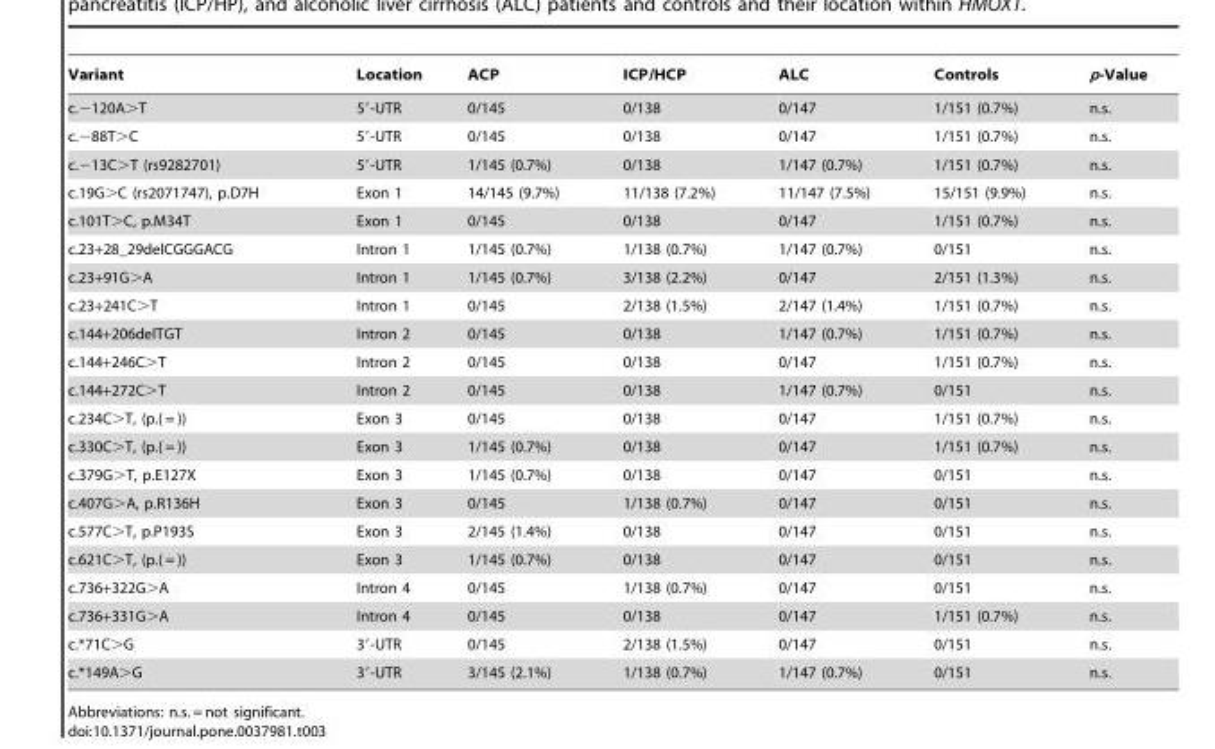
<table><thead><tr><td>Variant</td><td>Location</td><td>ACP</td><td>ICP/HCP</td><td>ALC</td><td>Controls</td><td>p-Value</td></tr></thead><tbody><tr><td>c.−120A&gt;T</td><td>5′-UTR</td><td>0/145</td><td>0/138</td><td>0/147</td><td>1/151 (0.7%)</td><td>n.s.</td></tr><tr><td>c.−88T&gt;C</td><td>5′-UTR</td><td>0/145</td><td>0/138</td><td>0/147</td><td>1/151 (0.7%)</td><td>n.s.</td></tr><tr><td>c.−13C&gt;T (rs9282701)</td><td>5′-UTR</td><td>1/145 (0.7%)</td><td>0/138</td><td>1/147 (0.7%)</td><td>1/151 (0.7%)</td><td>n.s.</td></tr><tr><td>c.19G&gt;C (rs2071747), p.D7H</td><td>Exon 1</td><td>14/145 (9.7%)</td><td>11/138 (7.2%)</td><td>11/147 (7.5%)</td><td>15/151 (9.9%)</td><td>n.s.</td></tr><tr><td>c.101T&gt;C, p.M34T</td><td>Exon 1</td><td>0/145</td><td>0/138</td><td>0/147</td><td>1/151 (0.7%)</td><td>n.s.</td></tr><tr><td>c.23+28_29delCGGGACG</td><td>Intron 1</td><td>1/145 (0.7%)</td><td>1/138 (0.7%)</td><td>1/147 (0.7%)</td><td>0/151</td><td>n.s.</td></tr><tr><td>c.23+91G&gt;A</td><td>Intron 1</td><td>1/145 (0.7%)</td><td>3/138 (2.2%)</td><td>0/147</td><td>2/151 (1.3%)</td><td>n.s.</td></tr><tr><td>c.23+241C&gt;T</td><td>Intron 1</td><td>0/145</td><td>2/138 (1.5%)</td><td>2/147 (1.4%)</td><td>1/151 (0.7%)</td><td>n.s.</td></tr><tr><td>c.144+206delTGT</td><td>Intron 2</td><td>0/145</td><td>0/138</td><td>1/147 (0.7%)</td><td>1/151 (0.7%)</td><td>n.s.</td></tr><tr><td>c.144+246C&gt;T</td><td>Intron 2</td><td>0/145</td><td>0/138</td><td>0/147</td><td>1/151 (0.7%)</td><td>n.s.</td></tr><tr><td>c.144+272C&gt;T</td><td>Intron 2</td><td>0/145</td><td>0/138</td><td>1/147 (0.7%)</td><td>0/151</td><td>n.s.</td></tr><tr><td>c.234C&gt;T, (p.( = ))</td><td>Exon 3</td><td>0/145</td><td>0/138</td><td>0/147</td><td>1/151 (0.7%)</td><td>n.s.</td></tr><tr><td>c.330C&gt;T, (p.( = ))</td><td>Exon 3</td><td>1/145 (0.7%)</td><td>0/138</td><td>0/147</td><td>1/151 (0.7%)</td><td>n.s.</td></tr><tr><td>c.379G&gt;T, p.E127X</td><td>Exon 3</td><td>1/145 (0.7%)</td><td>0/138</td><td>0/147</td><td>0/151</td><td>n.s.</td></tr><tr><td>c.407G&gt;A, p.R136H</td><td>Exon 3</td><td>0/145</td><td>1/138 (0.7%)</td><td>0/147</td><td>0/151</td><td>n.s.</td></tr><tr><td>c.577C&gt;T, p.P193S</td><td>Exon 3</td><td>2/145 (1.4%)</td><td>0/138</td><td>0/147</td><td>0/151</td><td>n.s.</td></tr><tr><td>c.621C&gt;T, (p.( = ))</td><td>Exon 3</td><td>1/145 (0.7%)</td><td>0/138</td><td>0/147</td><td>0/151</td><td>n.s.</td></tr><tr><td>c.736+322G&gt;A</td><td>Intron 4</td><td>0/145</td><td>1/138 (0.7%)</td><td>0/147</td><td>0/151</td><td>n.s.</td></tr><tr><td>c.736+331G&gt;A</td><td>Intron 4</td><td>0/145</td><td>0/138</td><td>0/147</td><td>1/151 (0.7%)</td><td>n.s.</td></tr><tr><td>c.*71C&gt;G</td><td>3′-UTR</td><td>0/145</td><td>2/138 (1.5%)</td><td>0/147</td><td>0/151</td><td>n.s.</td></tr><tr><td>c.*149A&gt;G</td><td>3′-UTR</td><td>3/145 (2.1%)</td><td>1/138 (0.7%)</td><td>1/147 (0.7%)</td><td>0/151</td><td>n.s.</td></tr></tbody></table>